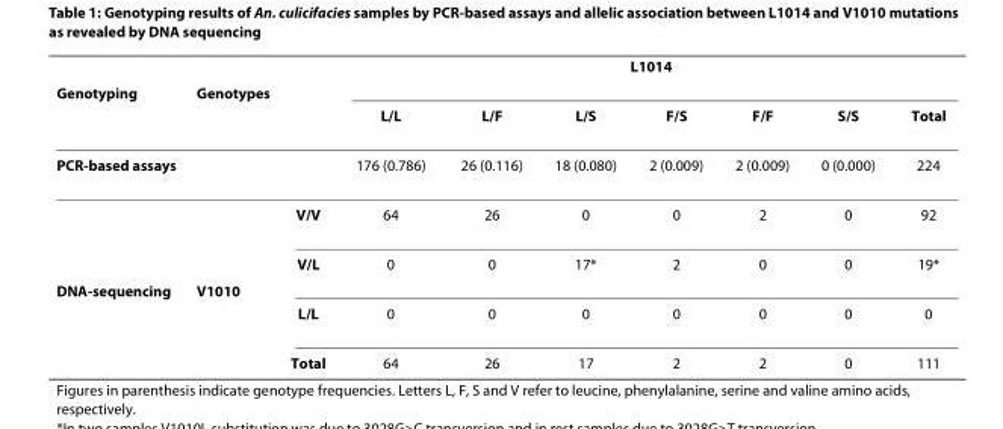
<table><thead><tr><td rowspan="3">Genotyping</td><td rowspan="3">Genotypes</td><td rowspan="3"></td><td colspan="7">L1014</td></tr><tr><td rowspan="2">L/L</td><td rowspan="2">L/F</td><td rowspan="2">L/S</td><td rowspan="2">F/S</td><td rowspan="2">F/F</td><td rowspan="2">S/S</td><td rowspan="2">Total</td></tr><tr></tr></thead><tbody><tr><td rowspan="3">PCR-based assays</td><td></td><td></td><td>176 (0.786)</td><td>26 (0.116)</td><td>18 (0.080)</td><td>2 (0.009)</td><td>2 (0.009)</td><td>0 (0.000)</td><td>224</td></tr><tr><td></td><td>V/V</td><td>64</td><td>26</td><td>0</td><td>0</td><td>2</td><td>0</td><td>92</td></tr><tr><td></td><td>V/L</td><td>0</td><td>0</td><td>17*</td><td>2</td><td>0</td><td>0</td><td>19*</td></tr><tr><td rowspan="3">DNA-sequencing</td><td>V1010</td><td colspan="8"></td></tr><tr><td></td><td>L/L</td><td>0</td><td>0</td><td>0</td><td>0</td><td>0</td><td>0</td><td>0</td></tr><tr><td></td><td>Total</td><td>64</td><td>26</td><td>17</td><td>2</td><td>2</td><td>0</td><td>111</td></tr></tbody></table>